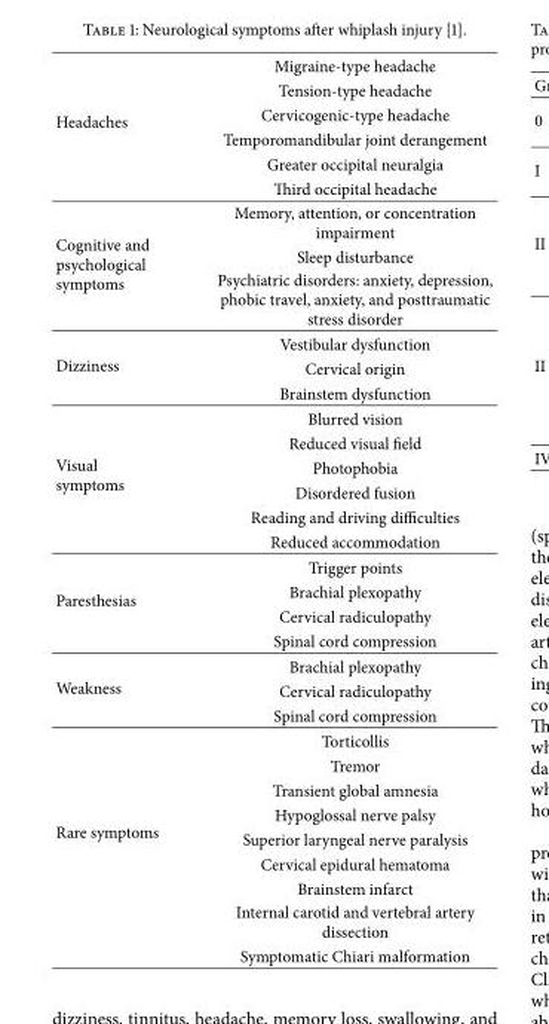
<table><tbody><tr><td rowspan="6">Headaches</td><td>Migraine-type headache</td></tr><tr><td>Tension-type headache</td></tr><tr><td>Cervicogenic-type headache</td></tr><tr><td>Temporomandibular joint derangement</td></tr><tr><td>Greater occipital neuralgia</td></tr><tr><td>Third occipital headache</td></tr><tr><td rowspan="3">Cognitive and psychological symptoms</td><td>Memory, attention, or concentration impairment</td></tr><tr><td>Sleep disturbance</td></tr><tr><td>Psychiatric disorders: anxiety, depression, phobic travel, anxiety, and posttraumatic stress disorder</td></tr><tr><td rowspan="3">Dizziness</td><td>Vestibular dysfunction</td></tr><tr><td>Cervical origin</td></tr><tr><td>Brainstem dysfunction</td></tr><tr><td rowspan="6">Visual symptoms</td><td>Blurred vision</td></tr><tr><td>Reduced visual field</td></tr><tr><td>Photophobia</td></tr><tr><td>Disordered fusion</td></tr><tr><td>Reading and driving difficulties</td></tr><tr><td>Reduced accommodation</td></tr><tr><td rowspan="4">Paresthesias</td><td>Trigger points</td></tr><tr><td>Brachial plexopathy</td></tr><tr><td>Cervical radiculopathy</td></tr><tr><td>Spinal cord compression</td></tr><tr><td rowspan="3">Weakness</td><td>Brachial plexopathy</td></tr><tr><td>Cervical radiculopathy</td></tr><tr><td>Spinal cord compression</td></tr><tr><td rowspan="9">Rare symptoms</td><td>Torticollis</td></tr><tr><td>Tremor</td></tr><tr><td>Transient global amnesia</td></tr><tr><td>Hypoglossal nerve palsy</td></tr><tr><td>Superior laryngeal nerve paralysis</td></tr><tr><td>Cervical epidural hematoma</td></tr><tr><td>Brainstem infarct</td></tr><tr><td>Internal carotid and vertebral artery dissection</td></tr><tr><td>Symptomatic Chiari malformation</td></tr></tbody></table>